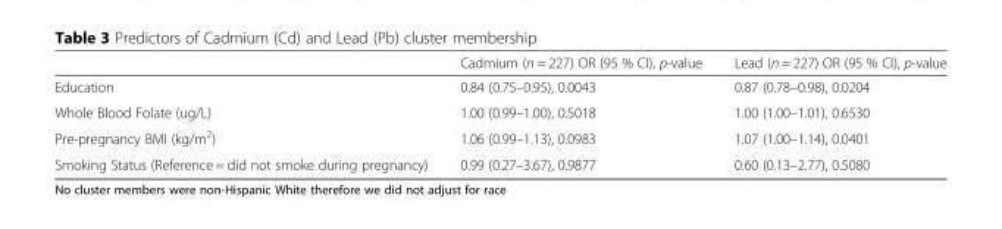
<table><thead><tr><td></td><td>Cadmium (n = 227) OR (95 % CI), p-value</td><td>Lead (n = 227) OR (95 % CI), p-value</td></tr></thead><tbody><tr><td>Education</td><td>0.84 (0.75–0.95), 0.0043</td><td>0.87 (0.78–0.98), 0.0204</td></tr><tr><td>Whole Blood Folate (ug/L)</td><td>1.00 (0.99–1.00), 0.5018</td><td>1.00 (1.00–1.01), 0.6530</td></tr><tr><td>Pre-pregnancy BMI (kg/m<sup>2</sup>)</td><td>1.06 (0.99–1.13), 0.0983</td><td>1.07 (1.00–1.14), 0.0401</td></tr><tr><td>Smoking Status (Reference = did not smoke during pregnancy)</td><td>0.99 (0.27–3.67), 0.9877</td><td>0.60 (0.13–2.77), 0.5080</td></tr></tbody></table>